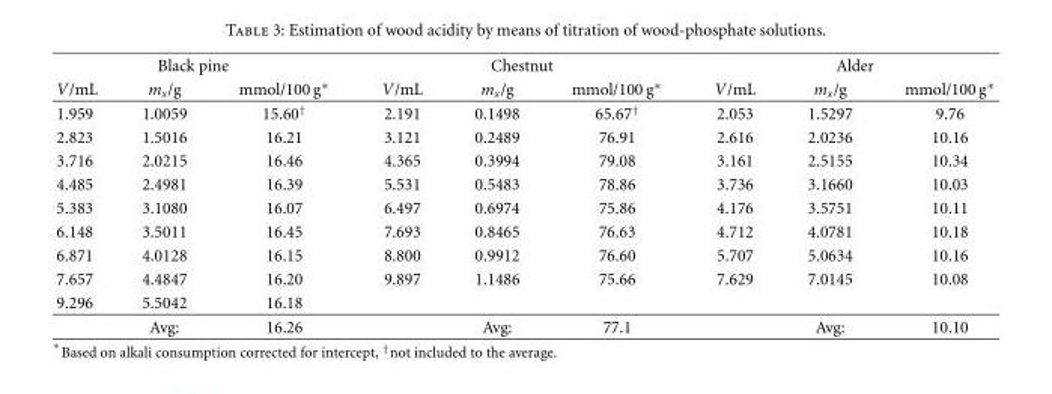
<table><thead><tr><td rowspan="2">V/mL</td><td rowspan="2">Black pine m<sub>x</sub>/g</td><td rowspan="2">mmol/100 g∗</td><td colspan="3">Chestnut</td><td colspan="3">Alder</td></tr><tr><td>V/mL</td><td>m<sub>x</sub>/g</td><td>mmol/100 g∗</td><td>V/mL</td><td>m<sub>x</sub>/g</td><td>mmol/100 g∗</td></tr></thead><tbody><tr><td>1.959</td><td>1.0059</td><td>15.60<sup>†</sup></td><td>2.191</td><td>0.1498</td><td>65.67<sup>†</sup></td><td>2.053</td><td>1.5297</td><td>9.76</td></tr><tr><td>2.823</td><td>1.5016</td><td>16.21</td><td>3.121</td><td>0.2489</td><td>76.91</td><td>2.616</td><td>2.0236</td><td>10.16</td></tr><tr><td>3.716</td><td>2.0215</td><td>16.46</td><td>4.365</td><td>0.3994</td><td>79.08</td><td>3.161</td><td>2.5155</td><td>10.34</td></tr><tr><td>4.485</td><td>2.4981</td><td>16.39</td><td>5.531</td><td>0.5483</td><td>78.86</td><td>3.736</td><td>3.1660</td><td>10.03</td></tr><tr><td>5.383</td><td>3.1080</td><td>16.07</td><td>6.497</td><td>0.6974</td><td>75.86</td><td>4.176</td><td>3.5751</td><td>10.11</td></tr><tr><td>6.148</td><td>3.5011</td><td>16.45</td><td>7.693</td><td>0.8465</td><td>76.63</td><td>4.712</td><td>4.0781</td><td>10.18</td></tr><tr><td>6.871</td><td>4.0128</td><td>16.15</td><td>8.800</td><td>0.9912</td><td>76.60</td><td>5.707</td><td>5.0634</td><td>10.16</td></tr><tr><td>7.657</td><td>4.4847</td><td>16.20</td><td>9.897</td><td>1.1486</td><td>75.66</td><td>7.629</td><td>7.0145</td><td>10.08</td></tr><tr><td rowspan="2">9.296</td><td>5.5042</td><td>16.18</td><td></td><td></td><td></td><td></td><td></td><td></td></tr><tr><td>Avg:</td><td>16.26</td><td></td><td>Avg:</td><td>77.1</td><td></td><td>Avg:</td><td>10.10</td></tr></tbody></table>